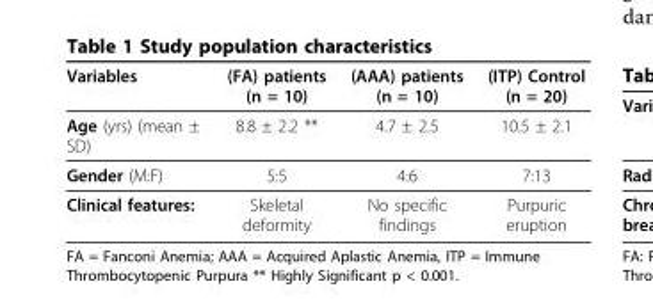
<table><thead><tr><td>Variables</td><td>(FA) patients (n = 10)</td><td>(AAA) patients (n = 10)</td><td>(ITP) Control (n = 20)</td></tr></thead><tbody><tr><td>Age (yrs) (mean ± SD)</td><td>8.8 ± 2.2 **</td><td>4.7 ± 2.5</td><td>10.5 ± 2.1</td></tr><tr><td>Gender (M:F)</td><td>5:5</td><td>4:6</td><td>7:13</td></tr><tr><td>Clinical features:</td><td>Skeletal deformity</td><td>No specific findings</td><td>Purpuric eruption</td></tr></tbody></table>